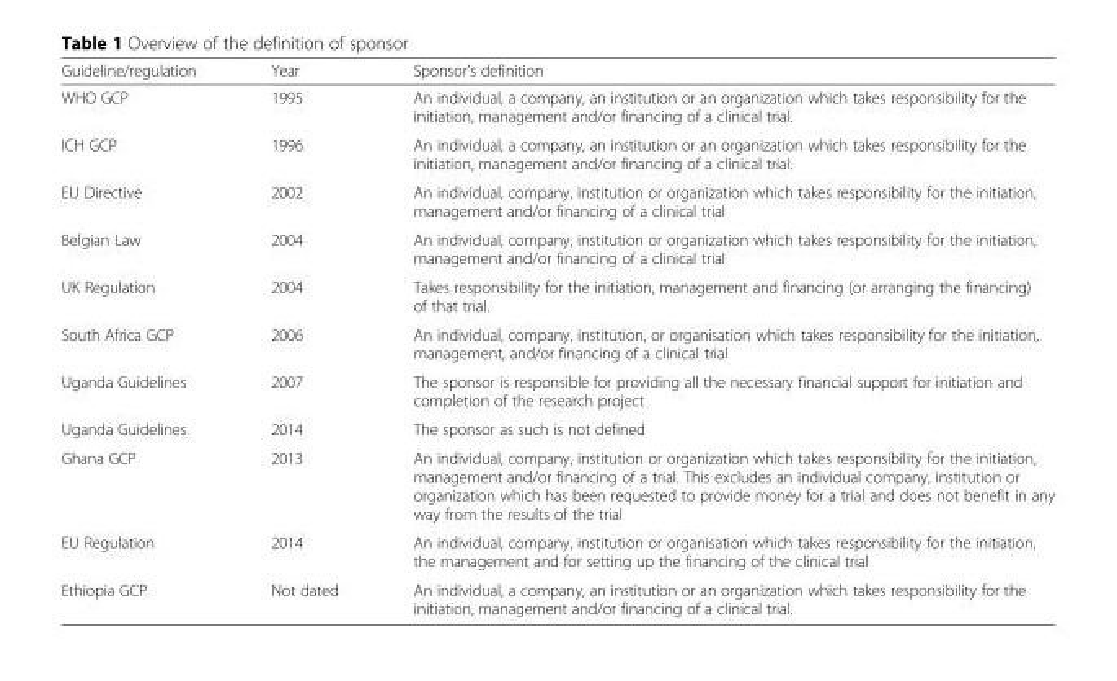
<table><thead><tr><td>Guideline/regulation</td><td>Year</td><td>Sponsor’s definition</td></tr></thead><tbody><tr><td>WHO GCP</td><td>1995</td><td>An individual, a company, an institution or an organization which takes responsibility for the initiation, management and/or financing of a clinical trial.</td></tr><tr><td>ICH GCP</td><td>1996</td><td>An individual, a company, an institution or an organization which takes responsibility for the initiation, management and/or financing of a clinical trial.</td></tr><tr><td>EU Directive</td><td>2002</td><td>An individual, company, institution or organization which takes responsibility for the initiation, management and/or financing of a clinical trial</td></tr><tr><td>Belgian Law</td><td>2004</td><td>An individual, company, institution or organization which takes responsibility for the initiation, management and/or financing of a clinical trial</td></tr><tr><td>UK Regulation</td><td>2004</td><td>Takes responsibility for the initiation, management and financing (or arranging the financing) of that trial.</td></tr><tr><td>South Africa GCP</td><td>2006</td><td>An individual, company, institution, or organisation which takes responsibility for the initiation, management, and/or financing of a clinical trial</td></tr><tr><td>Uganda Guidelines</td><td>2007</td><td>The sponsor is responsible for providing all the necessary financial support for initiation and completion of the research project</td></tr><tr><td>Uganda Guidelines</td><td>2014</td><td>The sponsor as such is not defined</td></tr><tr><td>Ghana GCP</td><td>2013</td><td>An individual, company, institution or organization which takes responsibility for the initiation, management and/or financing of a trial. This excludes an individual company, institution or organization which has been requested to provide money for a trial and does not benefit in any way from the results of the trial</td></tr><tr><td>EU Regulation</td><td>2014</td><td>An individual, company, institution or organisation which takes responsibility for the initiation, the management and for setting up the financing of the clinical trial</td></tr><tr><td>Ethiopia GCP</td><td>Not dated</td><td>An individual, a company, an institution or an organization which takes responsibility for the initiation, management and/or financing of a clinical trial.</td></tr></tbody></table>